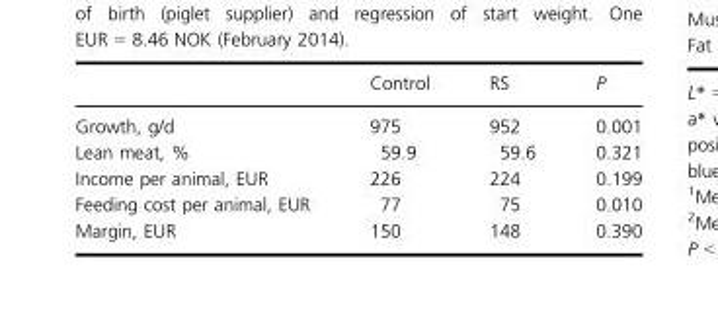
<table><thead><tr><td></td><td>Control</td><td>RS</td><td>P</td></tr></thead><tbody><tr><td>Growth, g/d</td><td>975</td><td>952</td><td>0.001</td></tr><tr><td>Lean meat, %</td><td>59.9</td><td>59.6</td><td>0.321</td></tr><tr><td>Income per animal, EUR</td><td>226</td><td>224</td><td>0.199</td></tr><tr><td>Feeding cost per animal, EUR</td><td>77</td><td>75</td><td>0.010</td></tr><tr><td>Margin, EUR</td><td>150</td><td>148</td><td>0.390</td></tr></tbody></table>